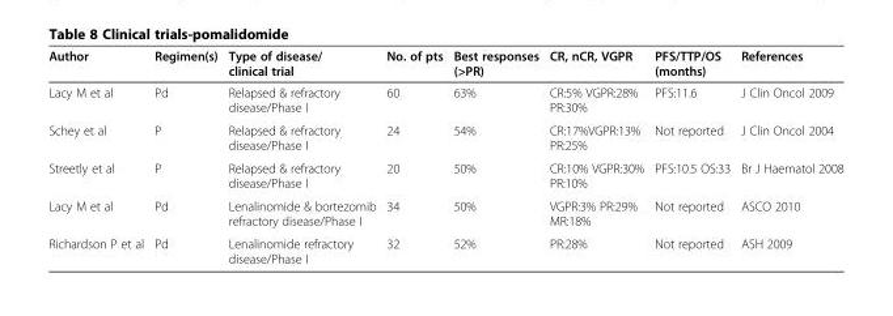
<table><thead><tr><td>Author</td><td>Regimen(s)</td><td>Type of disease/ clinical trial</td><td>No. of pts</td><td>Best responses (&gt;PR)</td><td>CR, nCR, VGPR</td><td>PFS/TTP/OS (months)</td><td>References</td></tr></thead><tbody><tr><td>Lacy M et al</td><td>Pd</td><td>Relapsed &amp; refractory disease/Phase I</td><td>60</td><td>63%</td><td>CR:5% VGPR:28% PR:30%</td><td>PFS:11.6</td><td>J Clin Oncol 2009</td></tr><tr><td>Schey et al</td><td>P</td><td>Relapsed &amp; refractory disease/Phase I</td><td>24</td><td>54%</td><td>CR:17%VGPR:13% PR:25%</td><td>Not reported</td><td>J Clin Oncol 2004</td></tr><tr><td>Streetly et al</td><td>P</td><td>Relapsed &amp; refractory disease/Phase I</td><td>20</td><td>50%</td><td>CR:10% VGPR:30% PR:10%</td><td>PFS:10.5 OS:33</td><td>Br J Haematol 2008</td></tr><tr><td>Lacy M et al</td><td>Pd</td><td>Lenalinomide &amp; bortezomib refractory disease/Phase I</td><td>34</td><td>50%</td><td>VGPR:3% PR:29% MR:18%</td><td>Not reported</td><td>ASCO 2010</td></tr><tr><td>Richardson P et al</td><td>Pd</td><td>Lenalinomide refractory disease/Phase I</td><td>32</td><td>52%</td><td>PR:28%</td><td>Not reported</td><td>ASH 2009</td></tr></tbody></table>